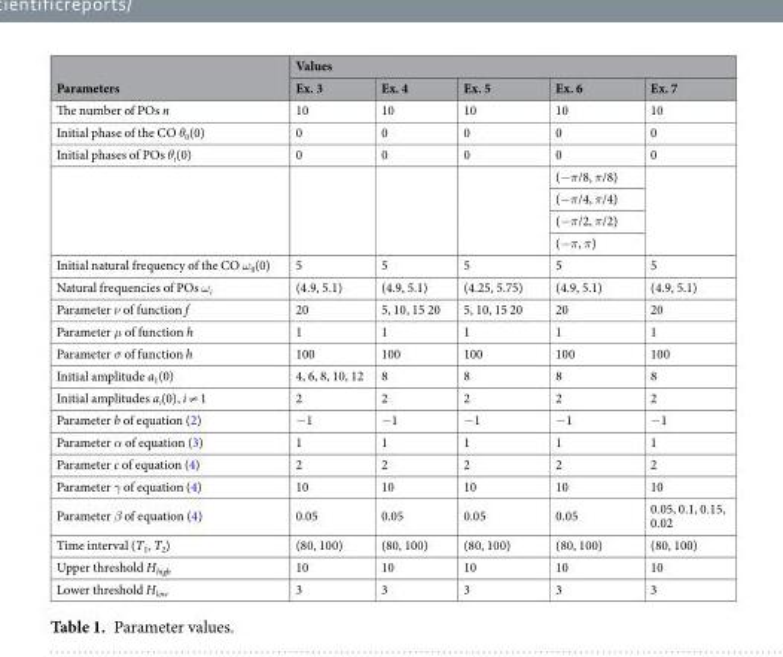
<table><thead><tr><td rowspan="2">Parameters</td><td colspan="5">Values</td></tr><tr><td>Ex. 3</td><td>Ex. 4</td><td>Ex. 5</td><td>Ex. 6</td><td>Ex. 7</td></tr></thead><tbody><tr><td>The number of POs n</td><td>10</td><td>10</td><td>10</td><td>10</td><td>10</td></tr><tr><td>Initial phase of the CO θ<sub>0</sub>(0)</td><td>0</td><td>0</td><td>0</td><td>0</td><td>0</td></tr><tr><td rowspan="5">Initial phases of POs θ<sub>i</sub>(0)</td><td>0</td><td>0</td><td>0</td><td>0</td><td>0</td></tr><tr><td rowspan="4"></td><td rowspan="4"></td><td rowspan="4"></td><td>(−π/8, π/8)</td><td rowspan="4"></td></tr><tr><td>(−π/4, π/4)</td></tr><tr><td>(−π/2, π/2)</td></tr><tr><td>(−π, π)</td></tr><tr><td>Initial natural frequency of the CO ω<sub>0</sub>(0)</td><td>5</td><td>5</td><td>5</td><td>5</td><td>5</td></tr><tr><td>Natural frequencies of POs ω<sub>i</sub></td><td>(4.9, 5.1)</td><td>(4.9, 5.1)</td><td>(4.25, 5.75)</td><td>(4.9, 5.1)</td><td>(4.9, 5.1)</td></tr><tr><td>Parameter ν of function f</td><td>20</td><td>5, 10, 15 20</td><td>5, 10, 15 20</td><td>20</td><td>20</td></tr><tr><td>Parameter μ of function h</td><td>1</td><td>1</td><td>1</td><td>1</td><td>1</td></tr><tr><td>Parameter σ of function h</td><td>100</td><td>100</td><td>100</td><td>100</td><td>100</td></tr><tr><td>Initial amplitude a<sub>1</sub>(0)</td><td>4, 6, 8, 10, 12</td><td>8</td><td>8</td><td>8</td><td>8</td></tr><tr><td>Initial amplitudes a<sub>i</sub>(0), i ≠ 1</td><td>2</td><td>2</td><td>2</td><td>2</td><td>2</td></tr><tr><td>Parameter b of equation (2)</td><td>−1</td><td>−1</td><td>−1</td><td>−1</td><td>−1</td></tr><tr><td>Parameter α of equation (3)</td><td>1</td><td>1</td><td>1</td><td>1</td><td>1</td></tr><tr><td>Parameter c of equation (4)</td><td>2</td><td>2</td><td>2</td><td>2</td><td>2</td></tr><tr><td>Parameter γ of equation (4)</td><td>10</td><td>10</td><td>10</td><td>10</td><td>10</td></tr><tr><td>Parameter β of equation (4)</td><td>0.05</td><td>0.05</td><td>0.05</td><td>0.05</td><td>0.05, 0.1, 0.15, 0.02</td></tr><tr><td>Time interval (T<sub>1</sub>, T<sub>2</sub>)</td><td>(80, 100)</td><td>(80, 100)</td><td>(80, 100)</td><td>(80, 100)</td><td>(80, 100)</td></tr><tr><td>Upper threshold H<sub>high</sub></td><td>10</td><td>10</td><td>10</td><td>10</td><td>10</td></tr><tr><td>Lower threshold H<sub>low</sub></td><td>3</td><td>3</td><td>3</td><td>3</td><td>3</td></tr></tbody></table>